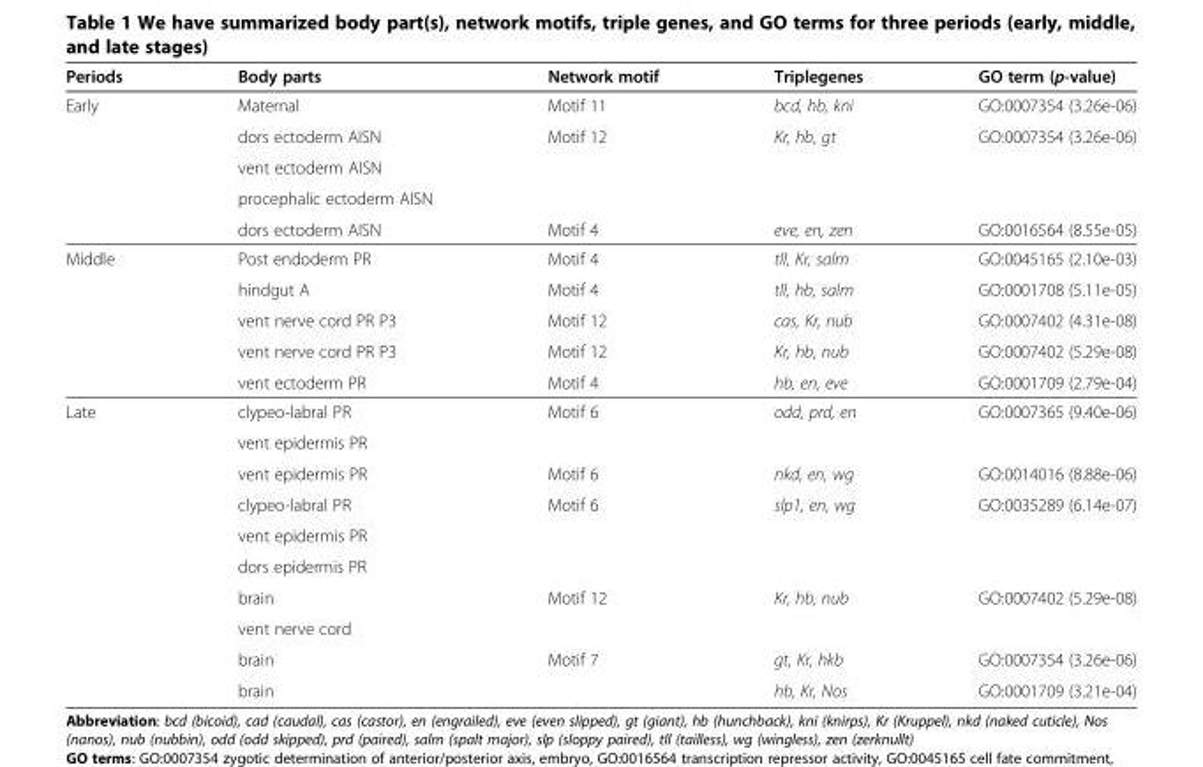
<table><thead><tr><td>Periods</td><td>Body parts</td><td>Network motif</td><td>Triplegenes</td><td>GO term (p-value)</td></tr></thead><tbody><tr><td rowspan="5">Early</td><td>Maternal</td><td>Motif 11</td><td>bcd, hb, kni</td><td>GO:0007354 (3.26e-06)</td></tr><tr><td>dors ectoderm AISN</td><td>Motif 12</td><td>Kr, hb, gt</td><td>GO:0007354 (3.26e-06)</td></tr><tr><td>vent ectoderm AISN</td><td></td><td></td><td></td></tr><tr><td>procephalic ectoderm AISN</td><td></td><td></td><td></td></tr><tr><td>dors ectoderm AISN</td><td>Motif 4</td><td>eve, en, zen</td><td>GO:0016564 (8.55e-05)</td></tr><tr><td rowspan="5">Middle</td><td>Post endoderm PR</td><td>Motif 4</td><td>tll, Kr, salm</td><td>GO:0045165 (2.10e-03)</td></tr><tr><td>hindgut A</td><td>Motif 4</td><td>tll, hb, salm</td><td>GO:0001708 (5.11e-05)</td></tr><tr><td>vent nerve cord PR P3</td><td>Motif 12</td><td>cas, Kr, nub</td><td>GO:0007402 (4.31e-08)</td></tr><tr><td>vent nerve cord PR P3</td><td>Motif 12</td><td>Kr, hb, nub</td><td>GO:0007402 (5.29e-08)</td></tr><tr><td>vent ectoderm PR</td><td>Motif 4</td><td>hb, en, eve</td><td>GO:0001709 (2.79e-04)</td></tr><tr><td rowspan="10">Late</td><td>clypeo-labral PR</td><td>Motif 6</td><td>odd, prd, en</td><td>GO:0007365 (9.40e-06)</td></tr><tr><td>vent epidermis PR</td><td></td><td></td><td></td></tr><tr><td>vent epidermis PR</td><td>Motif 6</td><td>nkd, en, wg</td><td>GO:0014016 (8.88e-06)</td></tr><tr><td>clypeo-labral PR</td><td>Motif 6</td><td>slp1, en, wg</td><td>GO:0035289 (6.14e-07)</td></tr><tr><td>vent epidermis PR</td><td></td><td></td><td></td></tr><tr><td>dors epidermis PR</td><td></td><td></td><td></td></tr><tr><td>brain</td><td>Motif 12</td><td>Kr, hb, nub</td><td>GO:0007402 (5.29e-08)</td></tr><tr><td>vent nerve cord</td><td></td><td></td><td></td></tr><tr><td>brain</td><td>Motif 7</td><td>gt, Kr, hkb</td><td>GO:0007354 (3.26e-06)</td></tr><tr><td>brain</td><td></td><td>hb, Kr, Nos</td><td>GO:0001709 (3.21e-04)</td></tr></tbody></table>